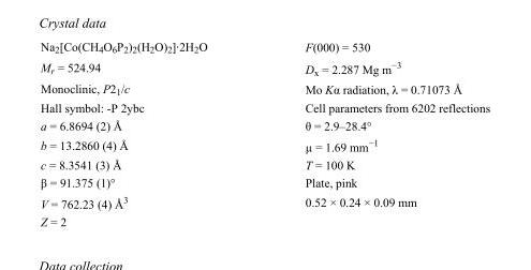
<table><tbody><tr><td>Na<sub>2</sub>[Co(CH<sub>4</sub>O<sub>6</sub>P<sub>2</sub>)<sub>2</sub>(H<sub>2</sub>O)<sub>2</sub>]·2H<sub>2</sub>O</td><td>F(000) = 530</td></tr><tr><td>M<sub>r</sub> = 524.94</td><td>D<sub>x</sub> = 2.287 Mg m<sup>−3</sup></td></tr><tr><td>Monoclinic, P2<sub>1</sub>/c</td><td>Mo Kα radiation, λ = 0.71073 Å</td></tr><tr><td>Hall symbol: -P 2ybc</td><td>Cell parameters from 6202 reflections</td></tr><tr><td>a = 6.8694 (2) Å</td><td>θ = 2.9–28.4°</td></tr><tr><td>b = 13.2860 (4) Å</td><td>µ = 1.69 mm<sup>−1</sup></td></tr><tr><td>c = 8.3541 (3) Å</td><td>T = 100 K</td></tr><tr><td>β = 91.375 (1)°</td><td>Plate, pink</td></tr><tr><td>V = 762.23 (4) Å<sup>3</sup></td><td>0.52 × 0.24 × 0.09 mm</td></tr><tr><td>Z = 2</td><td></td></tr></tbody></table>